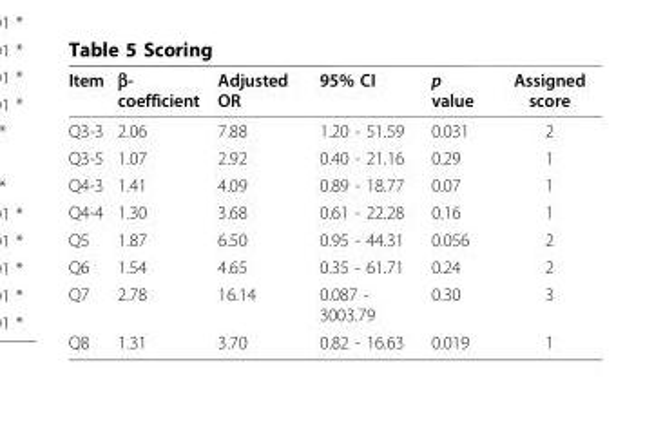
<table><thead><tr><td>Item</td><td>β- coefficient</td><td>Adjusted OR</td><td>95% CI</td><td>p value</td><td>Assigned score</td></tr></thead><tbody><tr><td>Q3-3</td><td>2.06</td><td>7.88</td><td>1.20 - 51.59</td><td>0.031</td><td>2</td></tr><tr><td>Q3-5</td><td>1.07</td><td>2.92</td><td>0.40 - 21.16</td><td>0.29</td><td>1</td></tr><tr><td>Q4-3</td><td>1.41</td><td>4.09</td><td>0.89 - 18.77</td><td>0.07</td><td>1</td></tr><tr><td>Q4-4</td><td>1.30</td><td>3.68</td><td>0.61 - 22.28</td><td>0.16</td><td>1</td></tr><tr><td>Q5</td><td>1.87</td><td>6.50</td><td>0.95 - 44.31</td><td>0.056</td><td>2</td></tr><tr><td>Q6</td><td>1.54</td><td>4.65</td><td>0.35 - 61.71</td><td>0.24</td><td>2</td></tr><tr><td>Q7</td><td>2.78</td><td>16.14</td><td>0.087 - 3003.79</td><td>0.30</td><td>3</td></tr><tr><td>Q8</td><td>1.31</td><td>3.70</td><td>0.82 - 16.63</td><td>0.019</td><td>1</td></tr></tbody></table>